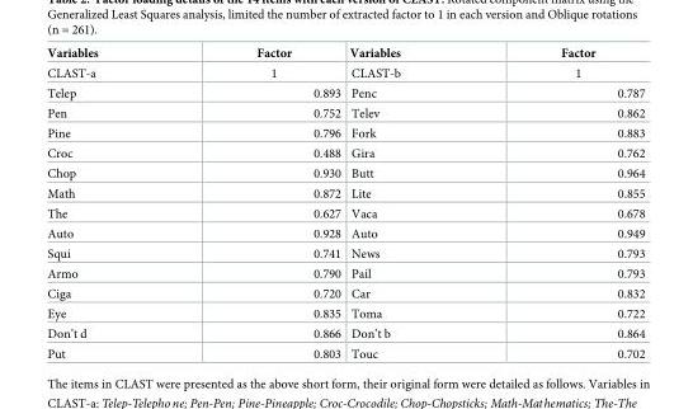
<table><thead><tr><td>Variables</td><td>Factor</td><td>Variables</td><td>Factor</td></tr></thead><tbody><tr><td>CLAST-a</td><td>1</td><td>CLAST-b</td><td>1</td></tr><tr><td>Telep</td><td>0.893</td><td>Penc</td><td>0.787</td></tr><tr><td>Pen</td><td>0.752</td><td>Telev</td><td>0.862</td></tr><tr><td>Pine</td><td>0.796</td><td>Fork</td><td>0.883</td></tr><tr><td>Croc</td><td>0.488</td><td>Gira</td><td>0.762</td></tr><tr><td>Chop</td><td>0.930</td><td>Butt</td><td>0.964</td></tr><tr><td>Math</td><td>0.872</td><td>Lite</td><td>0.855</td></tr><tr><td>The</td><td>0.627</td><td>Vaca</td><td>0.678</td></tr><tr><td>Auto</td><td>0.928</td><td>Auto</td><td>0.949</td></tr><tr><td>Squi</td><td>0.741</td><td>News</td><td>0.793</td></tr><tr><td>Armo</td><td>0.790</td><td>Pail</td><td>0.793</td></tr><tr><td>Ciga</td><td>0.720</td><td>Car</td><td>0.832</td></tr><tr><td>Eye</td><td>0.835</td><td>Toma</td><td>0.722</td></tr><tr><td>Don’t d</td><td>0.866</td><td>Don’t b</td><td>0.864</td></tr><tr><td>Put</td><td>0.803</td><td>Touc</td><td>0.702</td></tr></tbody></table>